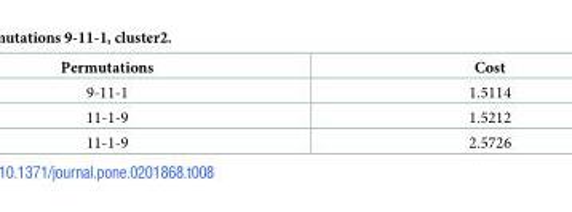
<table><thead><tr><td>Permutations</td><td>Cost</td></tr></thead><tbody><tr><td>9-11-1</td><td>1.5114</td></tr><tr><td>11-1-9</td><td>1.5212</td></tr><tr><td>11-1-9</td><td>2.5726</td></tr></tbody></table>